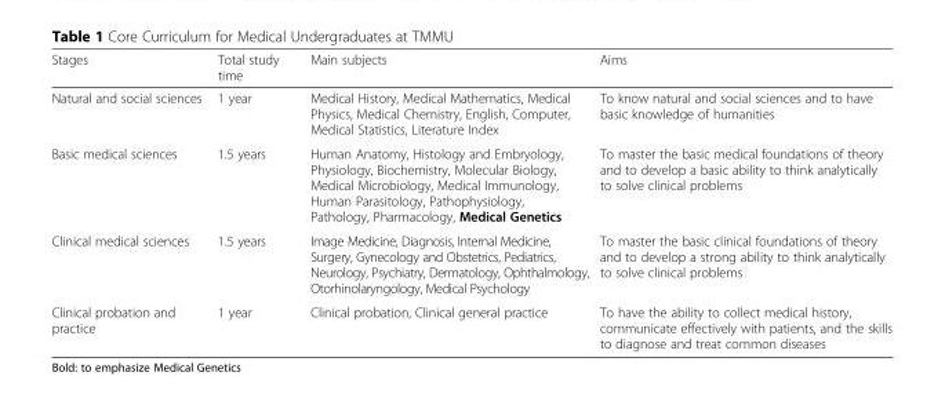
<table><thead><tr><td>Stages</td><td>Total study time</td><td>Main subjects</td><td>Aims</td></tr></thead><tbody><tr><td>Natural and social sciences</td><td>1 year</td><td>Medical History, Medical Mathematics, Medical Physics, Medical Chemistry, English, Computer, Medical Statistics, Literature Index</td><td>To know natural and social sciences and to have basic knowledge of humanities</td></tr><tr><td>Basic medical sciences</td><td>1.5 years</td><td>Human Anatomy, Histology and Embryology, Physiology, Biochemistry, Molecular Biology, Medical Microbiology, Medical Immunology, Human Parasitology, Pathophysiology, Pathology, Pharmacology, Medical Genetics</td><td>To master the basic medical foundations of theory and to develop a basic ability to think analytically to solve clinical problems</td></tr><tr><td>Clinical medical sciences</td><td>1.5 years</td><td>Image Medicine, Diagnosis, Internal Medicine, Surgery, Gynecology and Obstetrics, Pediatrics, Neurology, Psychiatry, Dermatology, Ophthalmology, Otorhinolaryngology, Medical Psychology</td><td>To master the basic clinical foundations of theory and to develop a strong ability to think analytically to solve clinical problems</td></tr><tr><td>Clinical probation and practice</td><td>1 year</td><td>Clinical probation, Clinical general practice</td><td>To have the ability to collect medical history, communicate effectively with patients, and the skills to diagnose and treat common diseases</td></tr></tbody></table>